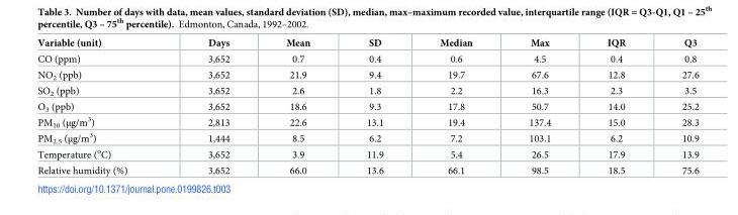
<table><thead><tr><td>Variable (unit)</td><td>Days</td><td>Mean</td><td>SD</td><td>Median</td><td>Max</td><td>IQR</td><td>Q3</td></tr></thead><tbody><tr><td>CO (ppm)</td><td>3,652</td><td>0.7</td><td>0.4</td><td>0.6</td><td>4.5</td><td>0.4</td><td>0.8</td></tr><tr><td>NO<sub>2</sub> (ppb)</td><td>3,652</td><td>21.9</td><td>9.4</td><td>19.7</td><td>67.6</td><td>12.8</td><td>27.6</td></tr><tr><td>SO<sub>2</sub> (ppb)</td><td>3,652</td><td>2.6</td><td>1.8</td><td>2.2</td><td>16.3</td><td>2.3</td><td>3.5</td></tr><tr><td>O<sub>3</sub> (ppb)</td><td>3,652</td><td>18.6</td><td>9.3</td><td>17.8</td><td>50.7</td><td>14.0</td><td>25.2</td></tr><tr><td>PM<sub>10</sub> (μg/m<sup>3</sup>)</td><td>2,813</td><td>22.6</td><td>13.1</td><td>19.4</td><td>137.4</td><td>15.0</td><td>28.3</td></tr><tr><td>PM<sub>2.5</sub> (μg/m<sup>3</sup>)</td><td>1,444</td><td>8.5</td><td>6.2</td><td>7.2</td><td>103.1</td><td>6.2</td><td>10.9</td></tr><tr><td>Temperature (<sup>o</sup>C)</td><td>3,652</td><td>3.9</td><td>11.9</td><td>5.4</td><td>26.5</td><td>17.9</td><td>13.9</td></tr><tr><td>Relative humidity (%)</td><td>3,652</td><td>66.0</td><td>13.6</td><td>66.1</td><td>98.5</td><td>18.5</td><td>75.6</td></tr></tbody></table>